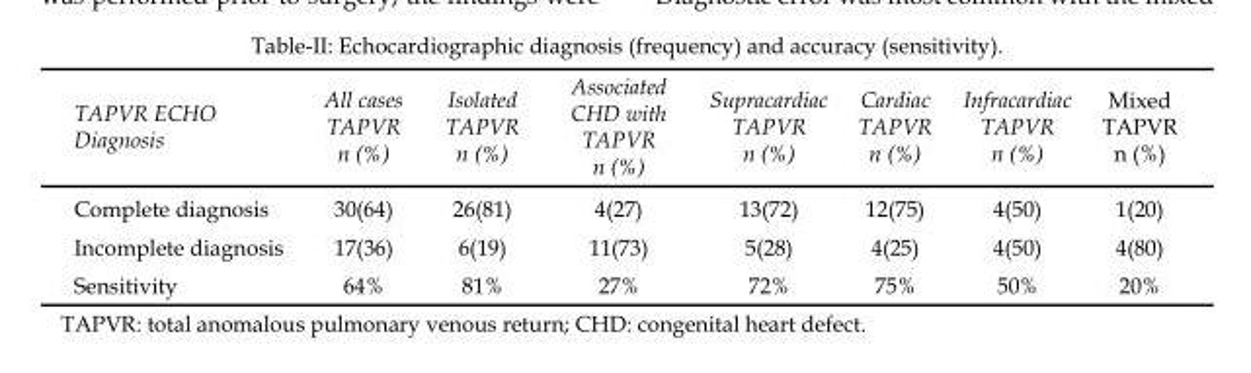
<table><thead><tr><td>TAPVR ECHO Diagnosis</td><td>All cases TAPVR n (%)</td><td>Isolated TAPVR n (%)</td><td>Associated CHD with TAPVR n (%)</td><td>Supracardiac TAPVR n (%)</td><td>Cardiac TAPVR n (%)</td><td>Infracardiac TAPVR n (%)</td><td>Mixed TAPVR n (%)</td></tr></thead><tbody><tr><td>Complete diagnosis</td><td>30(64)</td><td>26(81)</td><td>4(27)</td><td>13(72)</td><td>12(75)</td><td>4(50)</td><td>1(20)</td></tr><tr><td>Incomplete diagnosis</td><td>17(36)</td><td>6(19)</td><td>11(73)</td><td>5(28)</td><td>4(25)</td><td>4(50)</td><td>4(80)</td></tr><tr><td>Sensitivity</td><td>64%</td><td>81%</td><td>27%</td><td>72%</td><td>75%</td><td>50%</td><td>20%</td></tr></tbody></table>